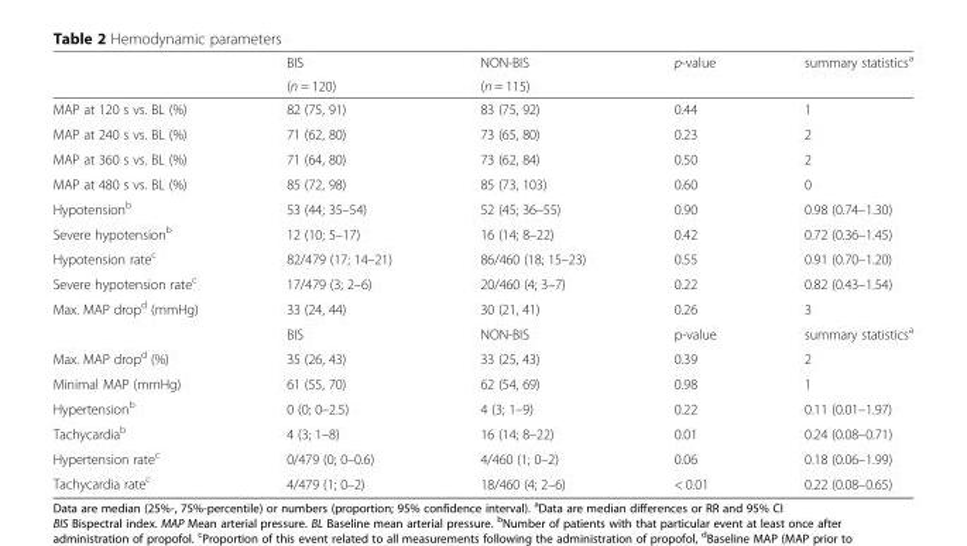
<table><thead><tr><td rowspan="2"></td><td rowspan="2">BIS (n = 120)</td><td rowspan="2">NON-BIS (n = 115)</td><td rowspan="2">p-value</td><td rowspan="2">summary statistics<sup>a</sup></td></tr><tr></tr></thead><tbody><tr><td>MAP at 120 s vs. BL (%)</td><td>82 (75, 91)</td><td>83 (75, 92)</td><td>0.44</td><td>1</td></tr><tr><td>MAP at 240 s vs. BL (%)</td><td>71 (62, 80)</td><td>73 (65, 80)</td><td>0.23</td><td>2</td></tr><tr><td>MAP at 360 s vs. BL (%)</td><td>71 (64, 80)</td><td>73 (62, 84)</td><td>0.50</td><td>2</td></tr><tr><td>MAP at 480 s vs. BL (%)</td><td>85 (72, 98)</td><td>85 (73, 103)</td><td>0.60</td><td>0</td></tr><tr><td>Hypotension<sup>b</sup></td><td>53 (44; 35–54)</td><td>52 (45; 36–55)</td><td>0.90</td><td>0.98 (0.74–1.30)</td></tr><tr><td>Severe hypotension<sup>b</sup></td><td>12 (10; 5–17)</td><td>16 (14; 8–22)</td><td>0.42</td><td>0.72 (0.36–1.45)</td></tr><tr><td>Hypotension rate<sup>c</sup></td><td>82/479 (17; 14–21)</td><td>86/460 (18; 15–23)</td><td>0.55</td><td>0.91 (0.70–1.20)</td></tr><tr><td>Severe hypotension rate<sup>c</sup></td><td>17/479 (3; 2–6)</td><td>20/460 (4; 3–7)</td><td>0.22</td><td>0.82 (0.43–1.54)</td></tr><tr><td rowspan="2">Max. MAP drop<sup>d</sup> (mmHg)</td><td>33 (24, 44)</td><td>30 (21, 41)</td><td>0.26</td><td>3</td></tr><tr><td>BIS</td><td>NON-BIS</td><td>p-value</td><td>summary statistics<sup>a</sup></td></tr><tr><td>Max. MAP drop<sup>d</sup> (%)</td><td>35 (26, 43)</td><td>33 (25, 43)</td><td>0.39</td><td>2</td></tr><tr><td>Minimal MAP (mmHg)</td><td>61 (55, 70)</td><td>62 (54, 69)</td><td>0.98</td><td>1</td></tr><tr><td>Hypertension<sup>b</sup></td><td>0 (0; 0–2.5)</td><td>4 (3; 1–9)</td><td>0.22</td><td>0.11 (0.01–1.97)</td></tr><tr><td>Tachycardia<sup>b</sup></td><td>4 (3; 1–8)</td><td>16 (14; 8–22)</td><td>0.01</td><td>0.24 (0.08–0.71)</td></tr><tr><td>Hypertension rate<sup>c</sup></td><td>0/479 (0; 0–0.6)</td><td>4/460 (1; 0–2)</td><td>0.06</td><td>0.18 (0.06–1.99)</td></tr><tr><td>Tachycardia rate<sup>c</sup></td><td>4/479 (1; 0–2)</td><td>18/460 (4; 2–6)</td><td>&lt; 0.01</td><td>0.22 (0.08–0.65)</td></tr></tbody></table>